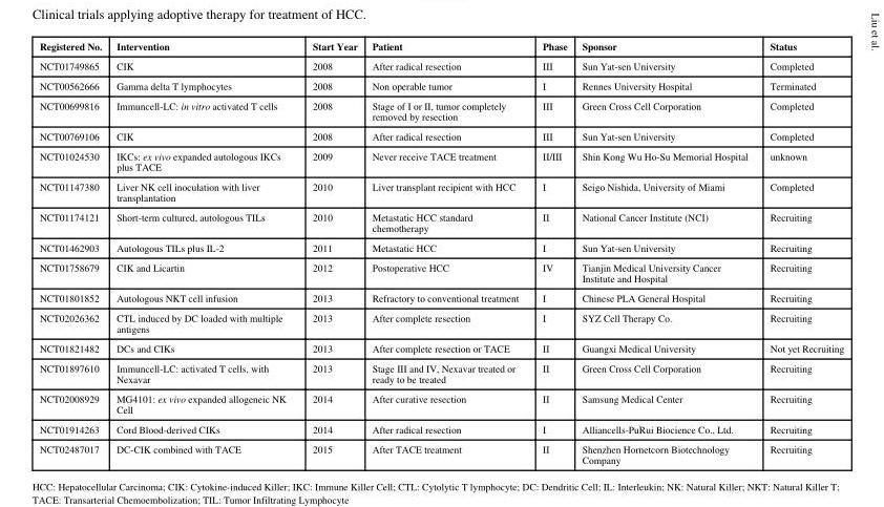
<table><thead><tr><td>Registered No.</td><td>Intervention</td><td>Start Year</td><td>Patient</td><td>Phase</td><td>Sponsor</td><td>Status</td></tr></thead><tbody><tr><td>NCT01749865</td><td>CIK</td><td>2008</td><td>After radical resection</td><td>III</td><td>Sun Yat-sen University</td><td>Completed</td></tr><tr><td>NCT00562666</td><td>Gamma delta T lymphocytes</td><td>2008</td><td>Non operable tumor</td><td>I</td><td>Rennes University Hospital</td><td>Terminated</td></tr><tr><td>NCT00699816</td><td>Immuncell-LC: in vitro activated T cells</td><td>2008</td><td>Stage of I or II, tumor completely removed by resection</td><td>III</td><td>Green Cross Cell Corporation</td><td>Completed</td></tr><tr><td>NCT00769106</td><td>CIK</td><td>2008</td><td>After radical resection</td><td>III</td><td>Sun Yat-sen University</td><td>Completed</td></tr><tr><td>NCT01024530</td><td>IKCs: ex vivo expanded autologous IKCs plus TACE</td><td>2009</td><td>Never receive TACE treatment</td><td>II/III</td><td>Shin Kong Wu Ho-Su Memorial Hospital</td><td>unknown</td></tr><tr><td>NCT01147380</td><td>Liver NK cell inoculation with liver transplantation</td><td>2010</td><td>Liver transplant recipient with HCC</td><td>I</td><td>Seigo Nishida, University of Miami</td><td>Completed</td></tr><tr><td>NCT01174121</td><td>Short-term cultured, autologous TILs</td><td>2010</td><td>Metastatic HCC standard chemotherapy</td><td>II</td><td>National Cancer Institute (NCI)</td><td>Recruiting</td></tr><tr><td>NCT01462903</td><td>Autologous TILs plus IL-2</td><td>2011</td><td>Metastatic HCC</td><td>I</td><td>Sun Yat-sen University</td><td>Recruiting</td></tr><tr><td>NCT01758679</td><td>CIK and Licartin</td><td>2012</td><td>Postoperative HCC</td><td>IV</td><td>Tianjin Medical University Cancer Institute and Hospital</td><td>Recruiting</td></tr><tr><td>NCT01801852</td><td>Autologous NKT cell infusion</td><td>2013</td><td>Refractory to conventional treatment</td><td>I</td><td>Chinese PLA General Hospital</td><td>Recruiting</td></tr><tr><td>NCT02026362</td><td>CTL induced by DC loaded with multiple antigens</td><td>2013</td><td>After complete resection</td><td>I</td><td>SYZ Cell Therapy Co.</td><td>Recruiting</td></tr><tr><td>NCT01821482</td><td>DCs and CIKs</td><td>2013</td><td>After complete resection or TACE</td><td>II</td><td>Guangxi Medical University</td><td>Not yet Recruiting</td></tr><tr><td>NCT01897610</td><td>Immuncell-LC: activated T cells, with Nexavar</td><td>2013</td><td>Stage III and IV, Nexavar treated or ready to be treated</td><td>II</td><td>Green Cross Cell Corporation</td><td>Recruiting</td></tr><tr><td>NCT02008929</td><td>MG4101: ex vivo expanded allogeneic NK Cell</td><td>2014</td><td>After curative resection</td><td>II</td><td>Samsung Medical Center</td><td>Recruiting</td></tr><tr><td>NCT01914263</td><td>Cord Blood-derived CIKs</td><td>2014</td><td>After radical resection</td><td>I</td><td>Alliancells-PuRui Biocience Co., Ltd.</td><td>Recruiting</td></tr><tr><td>NCT02487017</td><td>DC-CIK combined with TACE</td><td>2015</td><td>After TACE treatment</td><td>II</td><td>Shenzhen Hornetcorn Biotechnology Company</td><td>Recruiting</td></tr></tbody></table>